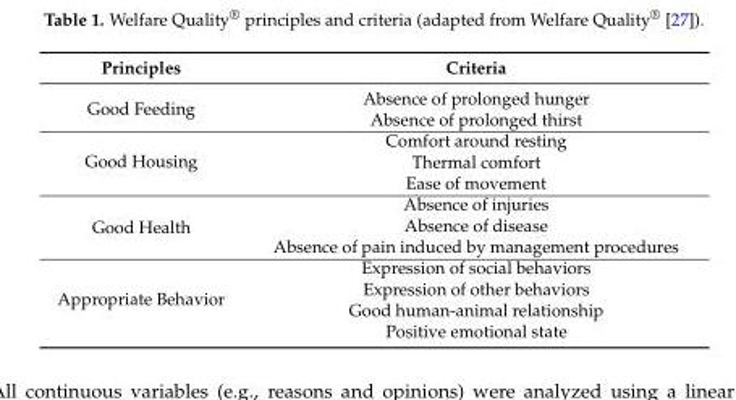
<table><thead><tr><td>Principles</td><td>Criteria</td></tr></thead><tbody><tr><td rowspan="2">Good Feeding</td><td>Absence of prolonged hunger</td></tr><tr><td>Absence of prolonged thirst</td></tr><tr><td rowspan="3">Good Housing</td><td>Comfort around resting</td></tr><tr><td>Thermal comfort</td></tr><tr><td>Ease of movement</td></tr><tr><td rowspan="3">Good Health</td><td>Absence of injuries</td></tr><tr><td>Absence of disease</td></tr><tr><td>Absence of pain induced by management procedures</td></tr><tr><td rowspan="4">Appropriate Behavior</td><td>Expression of social behaviors</td></tr><tr><td>Expression of other behaviors</td></tr><tr><td>Good human-animal relationship</td></tr><tr><td>Positive emotional state</td></tr></tbody></table>